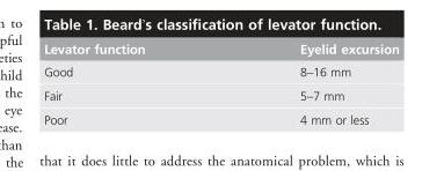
<table><thead><tr><td>Levator function</td><td>Eyelid excursion</td></tr></thead><tbody><tr><td>Good</td><td>8–16 mm</td></tr><tr><td>Fair</td><td>5–7 mm</td></tr><tr><td>Poor</td><td>4 mm or less</td></tr></tbody></table>